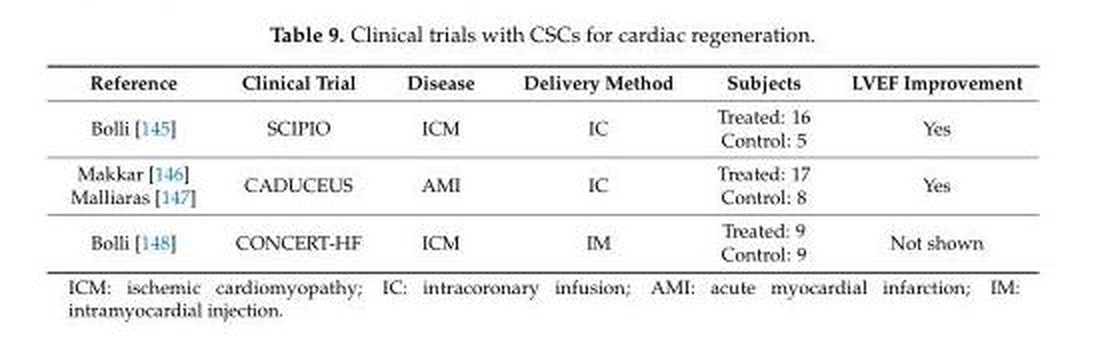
<table><thead><tr><td>Reference</td><td>Clinical Trial</td><td>Disease</td><td>Delivery Method</td><td>Subjects</td><td>LVEF Improvement</td></tr></thead><tbody><tr><td>Bolli [145]</td><td>SCIPIO</td><td>ICM</td><td>IC</td><td>Treated: 16 Control: 5</td><td>Yes</td></tr><tr><td>Makkar [146] Malliaras [147]</td><td>CADUCEUS</td><td>AMI</td><td>IC</td><td>Treated: 17 Control: 8</td><td>Yes</td></tr><tr><td>Bolli [148]</td><td>CONCERT-HF</td><td>ICM</td><td>IM</td><td>Treated: 9 Control: 9</td><td>Not shown</td></tr></tbody></table>